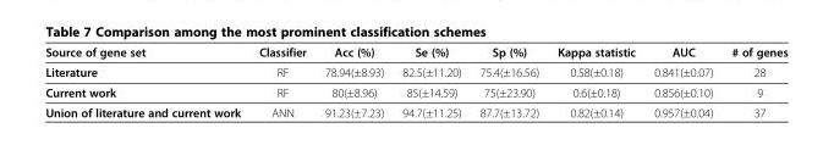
<table><thead><tr><td>Source of gene set</td><td>Classifier</td><td>Acc (%)</td><td>Se (%)</td><td>Sp (%)</td><td>Kappa statistic</td><td>AUC</td><td># of genes</td></tr></thead><tbody><tr><td>Literature</td><td>RF</td><td>78.94(±8.93)</td><td>82.5(±11.20)</td><td>75.4(±16.56)</td><td>0.58(±0.18)</td><td>0.841(±0.07)</td><td>28</td></tr><tr><td>Current work</td><td>RF</td><td>80(±8.96)</td><td>85(±14.59)</td><td>75(±23.90)</td><td>0.6(±0.18)</td><td>0.856(±0.10)</td><td>9</td></tr><tr><td>Union of literature and current work</td><td>ANN</td><td>91.23(±7.23)</td><td>94.7(±11.25)</td><td>87.7(±13.72)</td><td>0.82(±0.14)</td><td>0.957(±0.04)</td><td>37</td></tr></tbody></table>